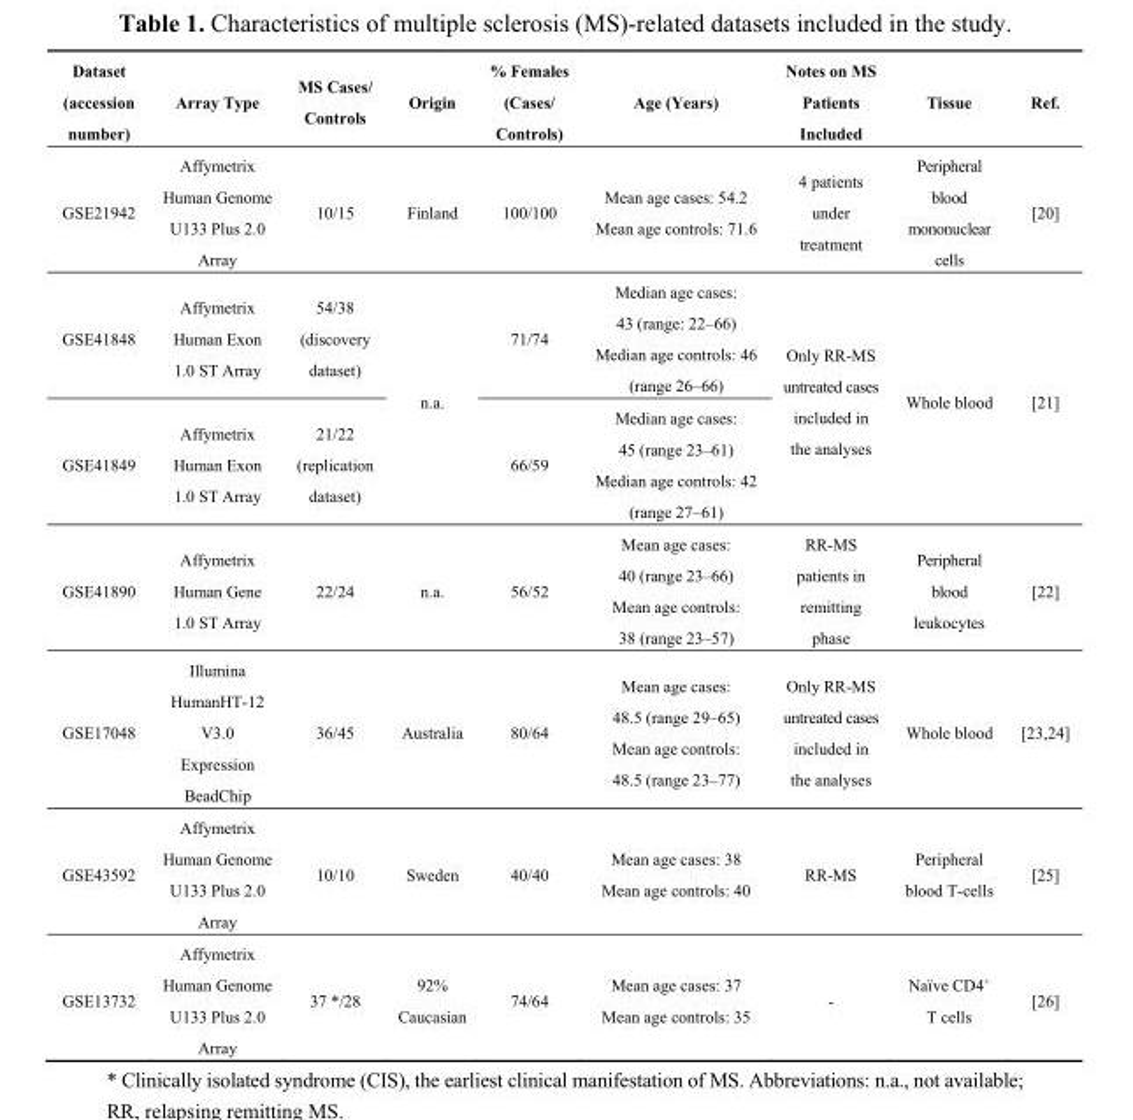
<table><thead><tr><td>Dataset (accession number)</td><td>Array Type</td><td>MS Cases/ Controls</td><td>Origin</td><td>% Females (Cases/ Controls)</td><td>Age (Years)</td><td>Notes on MS Patients Included</td><td>Tissue</td><td>Ref.</td></tr></thead><tbody><tr><td>GSE21942</td><td>Affymetrix Human Genome U133 Plus 2.0 Array</td><td>10/15</td><td>Finland</td><td>100/100</td><td>Mean age cases: 54.2 Mean age controls: 71.6</td><td>4 patients under treatment</td><td>Peripheral blood mononuclear cells</td><td>[20]</td></tr><tr><td>GSE41848</td><td>Affymetrix Human Exon 1.0 ST Array</td><td>54/38 (discovery dataset)</td><td rowspan="2">n.a.</td><td>71/74</td><td>Median age cases: 43 (range: 22–66) Median age controls: 46 (range 26–66)</td><td rowspan="2">Only RR-MS untreated cases included in the analyses</td><td rowspan="2">Whole blood</td><td rowspan="2">[21]</td></tr><tr><td>GSE41849</td><td>Affymetrix Human Exon 1.0 ST Array</td><td>21/22 (replication dataset)</td><td>66/59</td><td>Median age cases: 45 (range 23–61) Median age controls: 42 (range 27–61)</td></tr><tr><td>GSE41890</td><td>Affymetrix Human Gene 1.0 ST Array</td><td>22/24</td><td>n.a.</td><td>56/52</td><td>Mean age cases: 40 (range 23–66) Mean age controls: 38 (range 23–57)</td><td>RR-MS patients in remitting phase</td><td>Peripheral blood leukocytes</td><td>[22]</td></tr><tr><td>GSE17048</td><td>Illumina HumanHT-12 V3.0 Expression BeadChip</td><td>36/45</td><td>Australia</td><td>80/64</td><td>Mean age cases: 48.5 (range 29–65) Mean age controls: 48.5 (range 23–77)</td><td>Only RR-MS untreated cases included in the analyses</td><td>Whole blood</td><td>[23,24]</td></tr><tr><td>GSE43592</td><td>Affymetrix Human Genome U133 Plus 2.0 Array</td><td>10/10</td><td>Sweden</td><td>40/40</td><td>Mean age cases: 38 Mean age controls: 40</td><td>RR-MS</td><td>Peripheral blood T-cells</td><td>[25]</td></tr><tr><td>GSE13732</td><td>Affymetrix Human Genome U133 Plus 2.0 Array</td><td>37 */28</td><td>92% Caucasian</td><td>74/64</td><td>Mean age cases: 37 Mean age controls: 35</td><td>-</td><td>Naïve CD4<sup>+</sup> T cells</td><td>[26]</td></tr></tbody></table>